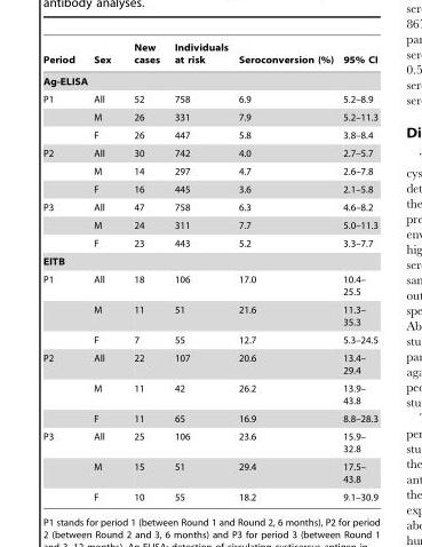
<table><thead><tr><td>Period</td><td>Sex</td><td>New cases</td><td>Individuals at risk</td><td>Seroconversion (%)</td><td>95% CI</td></tr></thead><tbody><tr><td colspan="6">Ag-ELISA</td></tr><tr><td rowspan="3">P1</td><td>All</td><td>52</td><td>758</td><td>6.9</td><td>5.2–8.9</td></tr><tr><td>M</td><td>26</td><td>331</td><td>7.9</td><td>5.2–11.3</td></tr><tr><td>F</td><td>26</td><td>447</td><td>5.8</td><td>3.8–8.4</td></tr><tr><td rowspan="3">P2</td><td>All</td><td>30</td><td>742</td><td>4.0</td><td>2.7–5.7</td></tr><tr><td>M</td><td>14</td><td>297</td><td>4.7</td><td>2.6–7.8</td></tr><tr><td>F</td><td>16</td><td>445</td><td>3.6</td><td>2.1–5.8</td></tr><tr><td rowspan="3">P3</td><td>All</td><td>47</td><td>758</td><td>6.3</td><td>4.6–8.2</td></tr><tr><td>M</td><td>24</td><td>311</td><td>7.7</td><td>5.0–11.3</td></tr><tr><td>F</td><td>23</td><td>443</td><td>5.2</td><td>3.3–7.7</td></tr><tr><td colspan="6">EITB</td></tr><tr><td rowspan="3">P1</td><td>All</td><td>18</td><td>106</td><td>17.0</td><td>10.4– 25.5</td></tr><tr><td>M</td><td>11</td><td>51</td><td>21.6</td><td>11.3– 35.3</td></tr><tr><td>F</td><td>7</td><td>55</td><td>12.7</td><td>5.3–24.5</td></tr><tr><td rowspan="3">P2</td><td>All</td><td>22</td><td>107</td><td>20.6</td><td>13.4– 29.4</td></tr><tr><td>M</td><td>11</td><td>42</td><td>26.2</td><td>13.9– 43.8</td></tr><tr><td>F</td><td>11</td><td>65</td><td>16.9</td><td>8.8–28.3</td></tr><tr><td rowspan="3">P3</td><td>All</td><td>25</td><td>106</td><td>23.6</td><td>15.9– 32.8</td></tr><tr><td>M</td><td>15</td><td>51</td><td>29.4</td><td>17.5– 43.8</td></tr><tr><td>F</td><td>10</td><td>55</td><td>18.2</td><td>9.1–30.9</td></tr></tbody></table>